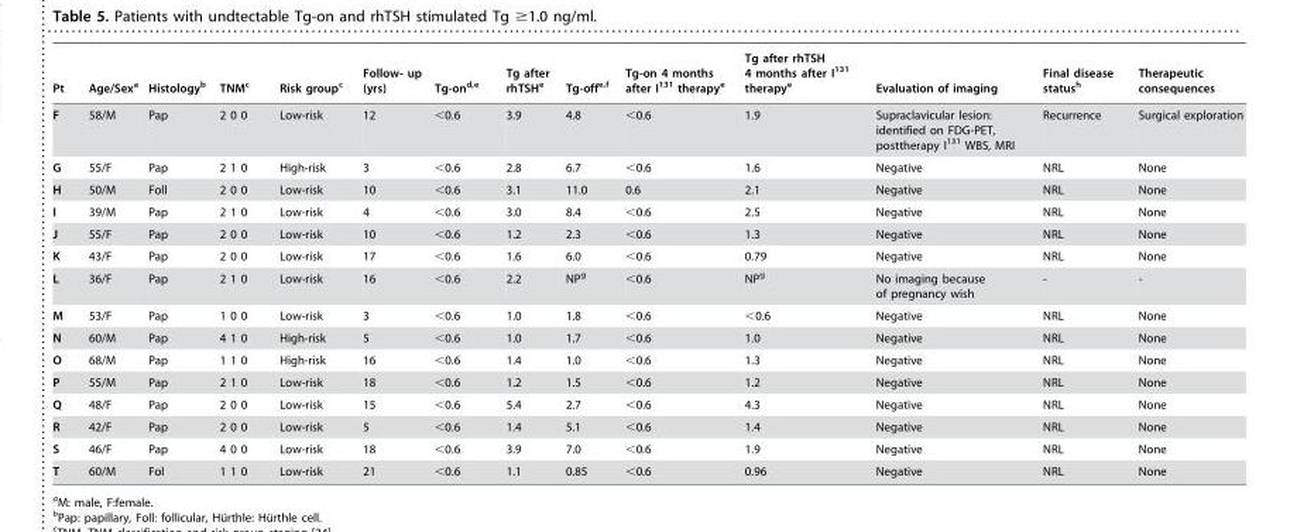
<table><thead><tr><td>Pt</td><td>Age/Sex<sup>a</sup></td><td>Histology<sup>b</sup></td><td>TNM<sup>c</sup></td><td>Risk group<sup>c</sup></td><td>Follow- up (yrs)</td><td>Tg-on<sup>d</sup>,<sup>e</sup></td><td>Tg after rhTSH<sup>e</sup></td><td>Tg-off<sup>e</sup>,<sup>f</sup></td><td>Tg-on 4 months after I<sup>131</sup> therapy<sup>e</sup></td><td>Tg after rhTSH 4 months after I<sup>131</sup> therapy<sup>e</sup></td><td>Evaluation of imaging</td><td>Final disease status<sup>h</sup></td><td>Therapeutic consequences</td></tr></thead><tbody><tr><td>F</td><td>58/M</td><td>Pap</td><td>2 0 0</td><td>Low-risk</td><td>12</td><td>&lt;0.6</td><td>3.9</td><td>4.8</td><td>&lt;0.6</td><td>1.9</td><td>Supraclavicular lesion: identified on FDG-PET, posttherapy I<sup>131</sup> WBS, MRI</td><td>Recurrence</td><td>Surgical exploration</td></tr><tr><td>G</td><td>55/F</td><td>Pap</td><td>2 1 0</td><td>High-risk</td><td>3</td><td>&lt;0.6</td><td>2.8</td><td>6.7</td><td>&lt;0.6</td><td>1.6</td><td>Negative</td><td>NRL</td><td>None</td></tr><tr><td>H</td><td>50/M</td><td>Foll</td><td>2 0 0</td><td>Low-risk</td><td>10</td><td>&lt;0.6</td><td>3.1</td><td>11.0</td><td>0.6</td><td>2.1</td><td>Negative</td><td>NRL</td><td>None</td></tr><tr><td>I</td><td>39/M</td><td>Pap</td><td>2 1 0</td><td>Low-risk</td><td>4</td><td>&lt;0.6</td><td>3.0</td><td>8.4</td><td>&lt;0.6</td><td>2.5</td><td>Negative</td><td>NRL</td><td>None</td></tr><tr><td>J</td><td>55/F</td><td>Pap</td><td>2 0 0</td><td>Low-risk</td><td>10</td><td>&lt;0.6</td><td>1.2</td><td>2.3</td><td>&lt;0.6</td><td>1.3</td><td>Negative</td><td>NRL</td><td>None</td></tr><tr><td>K</td><td>43/F</td><td>Pap</td><td>2 0 0</td><td>Low-risk</td><td>17</td><td>&lt;0.6</td><td>1.6</td><td>6.0</td><td>&lt;0.6</td><td>0.79</td><td>Negative</td><td>NRL</td><td>None</td></tr><tr><td>L</td><td>36/F</td><td>Pap</td><td>2 1 0</td><td>Low-risk</td><td>16</td><td>&lt;0.6</td><td>2.2</td><td>NP<sup>g</sup></td><td>&lt;0.6</td><td>NP<sup>g</sup></td><td>No imaging because of pregnancy wish</td><td>-</td><td>-</td></tr><tr><td>M</td><td>53/F</td><td>Pap</td><td>1 0 0</td><td>Low-risk</td><td>3</td><td>&lt;0.6</td><td>1.0</td><td>1.8</td><td>&lt;0.6</td><td>&lt;0.6</td><td>Negative</td><td>NRL</td><td>None</td></tr><tr><td>N</td><td>60/M</td><td>Pap</td><td>4 1 0</td><td>High-risk</td><td>5</td><td>&lt;0.6</td><td>1.0</td><td>1.7</td><td>&lt;0.6</td><td>1.0</td><td>Negative</td><td>NRL</td><td>None</td></tr><tr><td>O</td><td>68/M</td><td>Pap</td><td>1 1 0</td><td>High-risk</td><td>16</td><td>&lt;0.6</td><td>1.4</td><td>1.0</td><td>&lt;0.6</td><td>1.3</td><td>Negative</td><td>NRL</td><td>None</td></tr><tr><td>P</td><td>55/M</td><td>Pap</td><td>2 1 0</td><td>Low-risk</td><td>18</td><td>&lt;0.6</td><td>1.2</td><td>1.5</td><td>&lt;0.6</td><td>1.2</td><td>Negative</td><td>NRL</td><td>None</td></tr><tr><td>Q</td><td>48/F</td><td>Pap</td><td>2 0 0</td><td>Low-risk</td><td>15</td><td>&lt;0.6</td><td>5.4</td><td>2.7</td><td>&lt;0.6</td><td>4.3</td><td>Negative</td><td>NRL</td><td>None</td></tr><tr><td>R</td><td>42/F</td><td>Pap</td><td>2 0 0</td><td>Low-risk</td><td>5</td><td>&lt;0.6</td><td>1.4</td><td>5.1</td><td>&lt;0.6</td><td>1.4</td><td>Negative</td><td>NRL</td><td>None</td></tr><tr><td>S</td><td>46/F</td><td>Pap</td><td>4 0 0</td><td>Low-risk</td><td>18</td><td>&lt;0.6</td><td>3.9</td><td>7.0</td><td>&lt;0.6</td><td>1.9</td><td>Negative</td><td>NRL</td><td>None</td></tr><tr><td>T</td><td>60/M</td><td>Fol</td><td>1 1 0</td><td>Low-risk</td><td>21</td><td>&lt;0.6</td><td>1.1</td><td>0.85</td><td>&lt;0.6</td><td>0.96</td><td>Negative</td><td>NRL</td><td>None</td></tr></tbody></table>